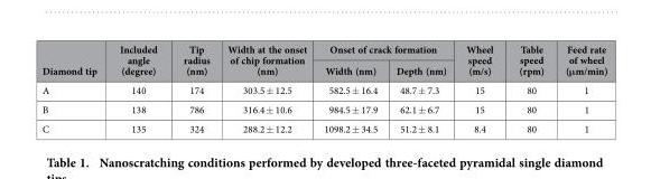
<table><thead><tr><td rowspan="2">Diamond tip</td><td rowspan="2">Included angle (degree)</td><td rowspan="2">Tip radius (nm)</td><td rowspan="2">Width at the onset of chip formation (nm)</td><td colspan="2">Onset of crack formation</td><td rowspan="2">Wheel speed (m/s)</td><td rowspan="2">Table speed (rpm)</td><td rowspan="2">Feed rate of wheel (μm/min)</td></tr><tr><td>Width (nm)</td><td>Depth (nm)</td></tr></thead><tbody><tr><td>A</td><td>140</td><td>174</td><td>303.5 ± 12.5</td><td>582.5 ± 16.4</td><td>48.7 ± 7.3</td><td>15</td><td>80</td><td>1</td></tr><tr><td>B</td><td>138</td><td>786</td><td>316.4 ± 10.6</td><td>984.5 ± 17.9</td><td>62.1 ± 6.7</td><td>15</td><td>80</td><td>1</td></tr><tr><td>C</td><td>135</td><td>324</td><td>288.2 ± 12.2</td><td>1098.2 ± 34.5</td><td>51.2 ± 8.1</td><td>8.4</td><td>80</td><td>1</td></tr></tbody></table>